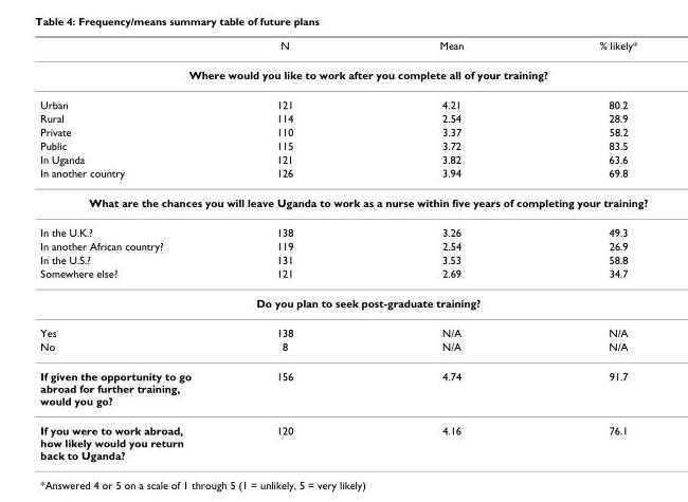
<table><thead><tr><td></td><td>N</td><td>Mean</td><td>% likely*</td></tr></thead><tbody><tr><td colspan="4">Where would you like to work after you complete all of your training?</td></tr><tr><td>Urban</td><td>121</td><td>4.21</td><td>80.2</td></tr><tr><td>Rural</td><td>114</td><td>2.54</td><td>28.9</td></tr><tr><td>Private</td><td>110</td><td>3.37</td><td>58.2</td></tr><tr><td>Public</td><td>115</td><td>3.72</td><td>83.5</td></tr><tr><td>In Uganda</td><td>121</td><td>3.82</td><td>63.6</td></tr><tr><td>In another country</td><td>126</td><td>3.94</td><td>69.8</td></tr><tr><td colspan="4">What are the chances you will leave Uganda to work as a nurse within five years of completing your training?</td></tr><tr><td>In the U.K.?</td><td>138</td><td>3.26</td><td>49.3</td></tr><tr><td>In another African country?</td><td>119</td><td>2.54</td><td>26.9</td></tr><tr><td>In the U.S.?</td><td>131</td><td>3.53</td><td>58.8</td></tr><tr><td>Somewhere else?</td><td>121</td><td>2.69</td><td>34.7</td></tr><tr><td colspan="4">Do you plan to seek post-graduate training?</td></tr><tr><td>Yes</td><td>138</td><td>N/A</td><td>N/A</td></tr><tr><td>No</td><td>8</td><td>N/A</td><td>N/A</td></tr><tr><td>If given the opportunity to go abroad for further training, would you go?</td><td>156</td><td>4.74</td><td>91.7</td></tr><tr><td>If you were to work abroad, how likely would you return back to Uganda?</td><td>120</td><td>4.16</td><td>76.1</td></tr></tbody></table>